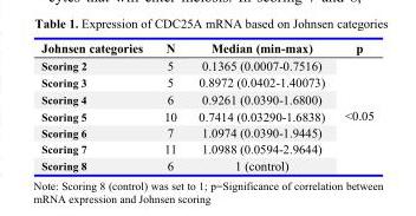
<table><thead><tr><td>Johnsen categories</td><td>N</td><td>Median (min-max)</td><td>p</td></tr></thead><tbody><tr><td>Scoring 2</td><td>5</td><td>0.1365 (0.0007-0.7516)</td><td rowspan="7">&lt;0.05</td></tr><tr><td>Scoring 3</td><td>5</td><td>0.8972 (0.0402-1.40073)</td></tr><tr><td>Scoring 4</td><td>6</td><td>0.9261 (0.0390-1.6800)</td></tr><tr><td>Scoring 5</td><td>10</td><td>0.7414 (0.03290-1.6838)</td></tr><tr><td>Scoring 6</td><td>7</td><td>1.0974 (0.0390-1.9445)</td></tr><tr><td>Scoring 7</td><td>11</td><td>1.0988 (0.0594-2.9644)</td></tr><tr><td>Scoring 8</td><td>6</td><td>1 (control)</td></tr></tbody></table>